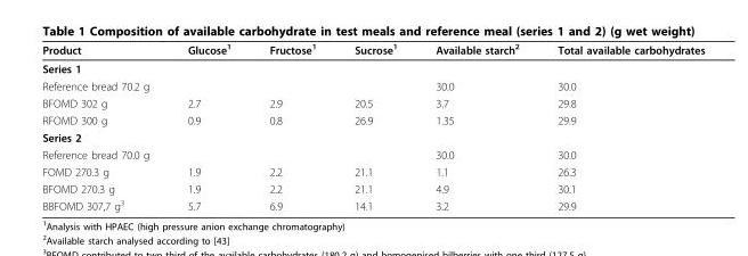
<table><thead><tr><td>Product</td><td>Glucose<sup>1</sup></td><td>Fructose<sup>1</sup></td><td>Sucrose<sup>1</sup></td><td>Available starch<sup>2</sup></td><td>Total available carbohydrates</td></tr></thead><tbody><tr><td colspan="6">Series 1</td></tr><tr><td>Reference bread 70.2 g</td><td></td><td></td><td></td><td>30.0</td><td>30.0</td></tr><tr><td>BFOMD 302 g</td><td>2.7</td><td>2.9</td><td>20.5</td><td>3.7</td><td>29.8</td></tr><tr><td>RFOMD 300 g</td><td>0.9</td><td>0.8</td><td>26.9</td><td>1.35</td><td>29.9</td></tr><tr><td colspan="6">Series 2</td></tr><tr><td>Reference bread 70.0 g</td><td></td><td></td><td></td><td>30.0</td><td>30.0</td></tr><tr><td>FOMD 270.3 g</td><td>1.9</td><td>2.2</td><td>21.1</td><td>1.1</td><td>26.3</td></tr><tr><td>BFOMD 270.3 g</td><td>1.9</td><td>2.2</td><td>21.1</td><td>4.9</td><td>30.1</td></tr><tr><td>BBFOMD 307,7 g<sup>3</sup></td><td>5.7</td><td>6.9</td><td>14.1</td><td>3.2</td><td>29.9</td></tr></tbody></table>